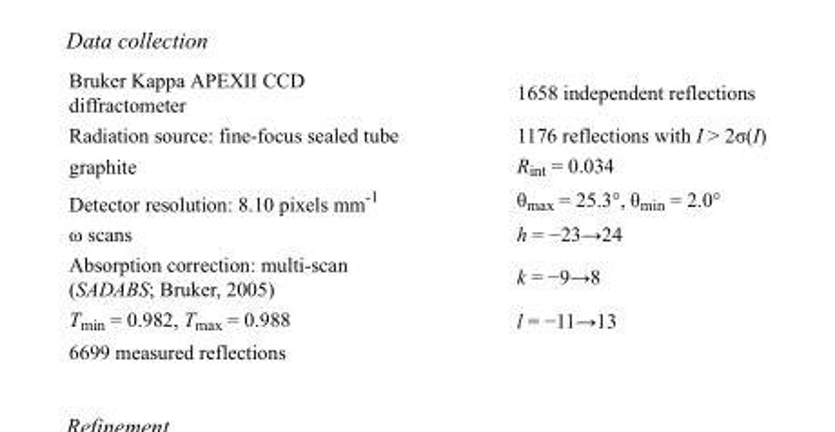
<table><tbody><tr><td>Bruker Kappa APEXII CCD diffractometer</td><td>1658 independent reflections</td></tr><tr><td>Radiation source: fine-focus sealed tube</td><td>1176 reflections with I &gt; 2σ(I)</td></tr><tr><td>graphite</td><td>R<sub>int</sub> = 0.034</td></tr><tr><td>Detector resolution: 8.10 pixels mm<sup>-1</sup></td><td>θ<sub>max</sub> = 25.3°, θ<sub>min</sub> = 2.0°</td></tr><tr><td>ω scans</td><td>h = −23→24</td></tr><tr><td>Absorption correction: multi-scan (SADABS; Bruker, 2005)</td><td>k = −9→8</td></tr><tr><td>T<sub>min</sub> = 0.982, T<sub>max</sub> = 0.988</td><td>l = −11→13</td></tr><tr><td>6699 measured reflections</td><td></td></tr></tbody></table>